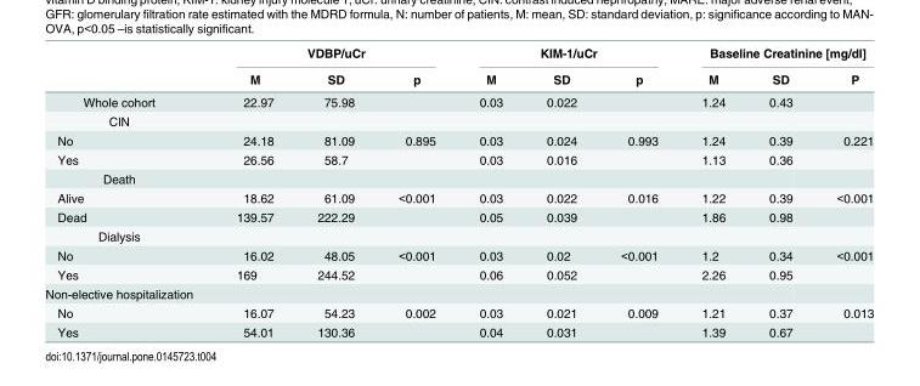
<table><thead><tr><td rowspan="2"></td><td colspan="3">VDBP/uCr</td><td colspan="3">KIM-1/uCr</td><td colspan="3">Baseline Creatinine [mg/dl]</td></tr><tr><td>M</td><td>SD</td><td>p</td><td>M</td><td>SD</td><td>p</td><td>M</td><td>SD</td><td>P</td></tr></thead><tbody><tr><td>Whole cohort</td><td>22.97</td><td>75.98</td><td></td><td>0.03</td><td>0.022</td><td></td><td>1.24</td><td>0.43</td><td></td></tr><tr><td colspan="10">CIN</td></tr><tr><td>No</td><td>24.18</td><td>81.09</td><td>0.895</td><td>0.03</td><td>0.024</td><td>0.993</td><td>1.24</td><td>0.39</td><td>0.221</td></tr><tr><td>Yes</td><td>26.56</td><td>58.7</td><td></td><td>0.03</td><td>0.016</td><td></td><td>1.13</td><td>0.36</td><td></td></tr><tr><td colspan="10">Death</td></tr><tr><td>Alive</td><td>18.62</td><td>61.09</td><td>&lt;0.001</td><td>0.03</td><td>0.022</td><td>0.016</td><td>1.22</td><td>0.39</td><td>&lt;0.001</td></tr><tr><td>Dead</td><td>139.57</td><td>222.29</td><td></td><td>0.05</td><td>0.039</td><td></td><td>1.86</td><td>0.98</td><td></td></tr><tr><td colspan="10">Dialysis</td></tr><tr><td>No</td><td>16.02</td><td>48.05</td><td>&lt;0.001</td><td>0.03</td><td>0.02</td><td>&lt;0.001</td><td>1.2</td><td>0.34</td><td>&lt;0.001</td></tr><tr><td>Yes</td><td>169</td><td>244.52</td><td></td><td>0.06</td><td>0.052</td><td></td><td>2.26</td><td>0.95</td><td></td></tr><tr><td colspan="10">Non-elective hospitalization</td></tr><tr><td>No</td><td>16.07</td><td>54.23</td><td>0.002</td><td>0.03</td><td>0.021</td><td>0.009</td><td>1.21</td><td>0.37</td><td>0.013</td></tr><tr><td>Yes</td><td>54.01</td><td>130.36</td><td></td><td>0.04</td><td>0.031</td><td></td><td>1.39</td><td>0.67</td><td></td></tr></tbody></table>